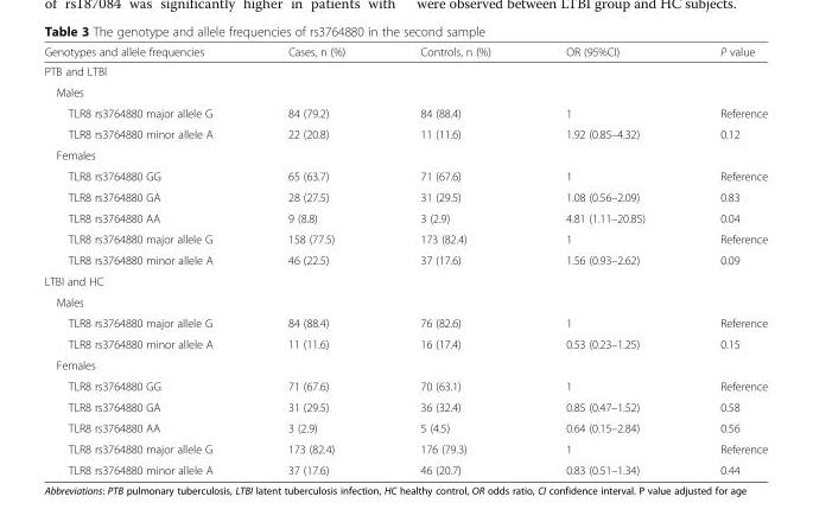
<table><thead><tr><td>Genotypes and allele frequencies</td><td>Cases, n (%)</td><td>Controls, n (%)</td><td>OR (95%CI)</td><td>P value</td></tr></thead><tbody><tr><td colspan="5">PTB and LTBI</td></tr><tr><td colspan="5">Males</td></tr><tr><td>TLR8 rs3764880 major allele G</td><td>84 (79.2)</td><td>84 (88.4)</td><td>1</td><td>Reference</td></tr><tr><td>TLR8 rs3764880 minor allele A</td><td>22 (20.8)</td><td>11 (11.6)</td><td>1.92 (0.85–4.32)</td><td>0.12</td></tr><tr><td colspan="5">Females</td></tr><tr><td>TLR8 rs3764880 GG</td><td>65 (63.7)</td><td>71 (67.6)</td><td>1</td><td>Reference</td></tr><tr><td>TLR8 rs3764880 GA</td><td>28 (27.5)</td><td>31 (29.5)</td><td>1.08 (0.56–2.09)</td><td>0.83</td></tr><tr><td>TLR8 rs3764880 AA</td><td>9 (8.8)</td><td>3 (2.9)</td><td>4.81 (1.11–20.85)</td><td>0.04</td></tr><tr><td>TLR8 rs3764880 major allele G</td><td>158 (77.5)</td><td>173 (82.4)</td><td>1</td><td>Reference</td></tr><tr><td>TLR8 rs3764880 minor allele A</td><td>46 (22.5)</td><td>37 (17.6)</td><td>1.56 (0.93–2.62)</td><td>0.09</td></tr><tr><td colspan="5">LTBI and HC</td></tr><tr><td colspan="5">Males</td></tr><tr><td>TLR8 rs3764880 major allele G</td><td>84 (88.4)</td><td>76 (82.6)</td><td>1</td><td>Reference</td></tr><tr><td>TLR8 rs3764880 minor allele A</td><td>11 (11.6)</td><td>16 (17.4)</td><td>0.53 (0.23–1.25)</td><td>0.15</td></tr><tr><td colspan="5">Females</td></tr><tr><td>TLR8 rs3764880 GG</td><td>71 (67.6)</td><td>70 (63.1)</td><td>1</td><td>Reference</td></tr><tr><td>TLR8 rs3764880 GA</td><td>31 (29.5)</td><td>36 (32.4)</td><td>0.85 (0.47–1.52)</td><td>0.58</td></tr><tr><td>TLR8 rs3764880 AA</td><td>3 (2.9)</td><td>5 (4.5)</td><td>0.64 (0.15–2.84)</td><td>0.56</td></tr><tr><td>TLR8 rs3764880 major allele G</td><td>173 (82.4)</td><td>176 (79.3)</td><td>1</td><td>Reference</td></tr><tr><td>TLR8 rs3764880 minor allele A</td><td>37 (17.6)</td><td>46 (20.7)</td><td>0.83 (0.51–1.34)</td><td>0.44</td></tr></tbody></table>